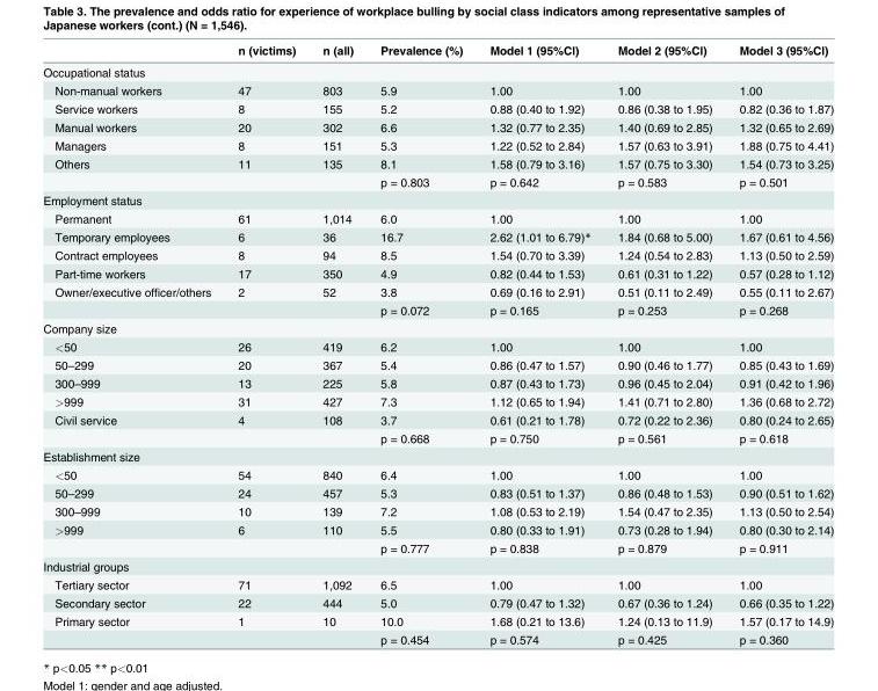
<table><thead><tr><td></td><td>n (victims)</td><td>n (all)</td><td>Prevalence (%)</td><td>Model 1 (95%Cl)</td><td>Model 2 (95%Cl)</td><td>Model 3 (95%Cl)</td></tr></thead><tbody><tr><td colspan="7">Occupational status</td></tr><tr><td>Non-manual workers</td><td>47</td><td>803</td><td>5.9</td><td>1.00</td><td>1.00</td><td>1.00</td></tr><tr><td>Service workers</td><td>8</td><td>155</td><td>5.2</td><td>0.88 (0.40 to 1.92)</td><td>0.86 (0.38 to 1.95)</td><td>0.82 (0.36 to 1.87)</td></tr><tr><td>Manual workers</td><td>20</td><td>302</td><td>6.6</td><td>1.32 (0.77 to 2.35)</td><td>1.40 (0.69 to 2.85)</td><td>1.32 (0.65 to 2.69)</td></tr><tr><td>Managers</td><td>8</td><td>151</td><td>5.3</td><td>1.22 (0.52 to 2.84)</td><td>1.57 (0.63 to 3.91)</td><td>1.88 (0.75 to 4.41)</td></tr><tr><td rowspan="2">Others</td><td>11</td><td>135</td><td>8.1</td><td>1.58 (0.79 to 3.16)</td><td>1.57 (0.75 to 3.30)</td><td>1.54 (0.73 to 3.25)</td></tr><tr><td></td><td></td><td>p = 0.803</td><td>p = 0.642</td><td>p = 0.583</td><td>p = 0.501</td></tr><tr><td colspan="7">Employment status</td></tr><tr><td>Permanent</td><td>61</td><td>1,014</td><td>6.0</td><td>1.00</td><td>1.00</td><td>1.00</td></tr><tr><td>Temporary employees</td><td>6</td><td>36</td><td>16.7</td><td>2.62 (1.01 to 6.79)*</td><td>1.84 (0.68 to 5.00)</td><td>1.67 (0.61 to 4.56)</td></tr><tr><td>Contract employees</td><td>8</td><td>94</td><td>8.5</td><td>1.54 (0.70 to 3.39)</td><td>1.24 (0.54 to 2.83)</td><td>1.13 (0.50 to 2.59)</td></tr><tr><td>Part-time workers</td><td>17</td><td>350</td><td>4.9</td><td>0.82 (0.44 to 1.53)</td><td>0.61 (0.31 to 1.22)</td><td>0.57 (0.28 to 1.12)</td></tr><tr><td rowspan="2">Owner/executive officer/others</td><td>2</td><td>52</td><td>3.8</td><td>0.69 (0.16 to 2.91)</td><td>0.51 (0.11 to 2.49)</td><td>0.55 (0.11 to 2.67)</td></tr><tr><td></td><td></td><td>p = 0.072</td><td>p = 0.165</td><td>p = 0.253</td><td>p = 0.268</td></tr><tr><td colspan="7">Company size</td></tr><tr><td>&lt;50</td><td>26</td><td>419</td><td>6.2</td><td>1.00</td><td>1.00</td><td>1.00</td></tr><tr><td>50–299</td><td>20</td><td>367</td><td>5.4</td><td>0.86 (0.47 to 1.57)</td><td>0.90 (0.46 to 1.77)</td><td>0.85 (0.43 to 1.69)</td></tr><tr><td>300–999</td><td>13</td><td>225</td><td>5.8</td><td>0.87 (0.43 to 1.73)</td><td>0.96 (0.45 to 2.04)</td><td>0.91 (0.42 to 1.96)</td></tr><tr><td>&gt;999</td><td>31</td><td>427</td><td>7.3</td><td>1.12 (0.65 to 1.94)</td><td>1.41 (0.71 to 2.80)</td><td>1.36 (0.68 to 2.72)</td></tr><tr><td rowspan="2">Civil service</td><td>4</td><td>108</td><td>3.7</td><td>0.61 (0.21 to 1.78)</td><td>0.72 (0.22 to 2.36)</td><td>0.80 (0.24 to 2.65)</td></tr><tr><td></td><td></td><td>p = 0.668</td><td>p = 0.750</td><td>p = 0.561</td><td>p = 0.618</td></tr><tr><td colspan="7">Establishment size</td></tr><tr><td>&lt;50</td><td>54</td><td>840</td><td>6.4</td><td>1.00</td><td>1.00</td><td>1.00</td></tr><tr><td>50–299</td><td>24</td><td>457</td><td>5.3</td><td>0.83 (0.51 to 1.37)</td><td>0.86 (0.48 to 1.53)</td><td>0.90 (0.51 to 1.62)</td></tr><tr><td>300–999</td><td>10</td><td>139</td><td>7.2</td><td>1.08 (0.53 to 2.19)</td><td>1.54 (0.47 to 2.35)</td><td>1.13 (0.50 to 2.54)</td></tr><tr><td rowspan="2">&gt;999</td><td>6</td><td>110</td><td>5.5</td><td>0.80 (0.33 to 1.91)</td><td>0.73 (0.28 to 1.94)</td><td>0.80 (0.30 to 2.14)</td></tr><tr><td></td><td></td><td>p = 0.777</td><td>p = 0.838</td><td>p = 0.879</td><td>p = 0.911</td></tr><tr><td colspan="7">Industrial groups</td></tr><tr><td>Tertiary sector</td><td>71</td><td>1,092</td><td>6.5</td><td>1.00</td><td>1.00</td><td>1.00</td></tr><tr><td>Secondary sector</td><td>22</td><td>444</td><td>5.0</td><td>0.79 (0.47 to 1.32)</td><td>0.67 (0.36 to 1.24)</td><td>0.66 (0.35 to 1.22)</td></tr><tr><td rowspan="2">Primary sector</td><td>1</td><td>10</td><td>10.0</td><td>1.68 (0.21 to 13.6)</td><td>1.24 (0.13 to 11.9)</td><td>1.57 (0.17 to 14.9)</td></tr><tr><td></td><td></td><td>p = 0.454</td><td>p = 0.574</td><td>p = 0.425</td><td>p = 0.360</td></tr></tbody></table>